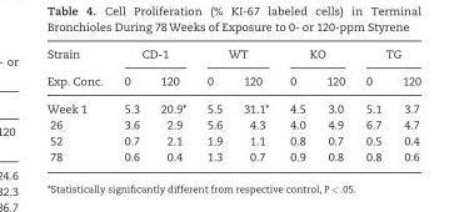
<table><thead><tr><td rowspan="2">Strain Exp. Conc.</td><td colspan="2">CD-1</td><td colspan="2">WT</td><td colspan="2">KO</td><td colspan="2">TG</td></tr><tr><td>0</td><td>120</td><td>0</td><td>120</td><td>0</td><td>120</td><td>0</td><td>120</td></tr></thead><tbody><tr><td>Week 1</td><td>5.3</td><td>20.9*</td><td>5.5</td><td>31.1*</td><td>4.5</td><td>3.0</td><td>5.1</td><td>3.7</td></tr><tr><td>26</td><td>3.6</td><td>2.9</td><td>5.6</td><td>4.3</td><td>4.0</td><td>4.9</td><td>6.7</td><td>4.7</td></tr><tr><td>52</td><td>0.7</td><td>2.1</td><td>1.9</td><td>1.1</td><td>0.8</td><td>0.7</td><td>0.5</td><td>0.4</td></tr><tr><td>78</td><td>0.6</td><td>0.4</td><td>1.3</td><td>0.7</td><td>0.9</td><td>0.8</td><td>0.8</td><td>0.6</td></tr></tbody></table>